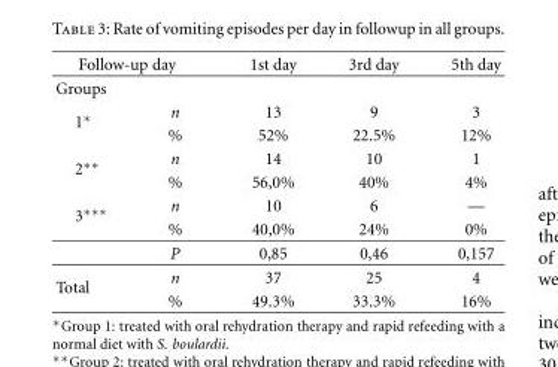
<table><thead><tr><td colspan="2">Follow-up day</td><td rowspan="2">1st day</td><td rowspan="2">3rd day</td><td rowspan="2">5th day</td></tr><tr><td>Groups</td><td></td></tr></thead><tbody><tr><td rowspan="2">1∗</td><td>n</td><td>13</td><td>9</td><td>3</td></tr><tr><td>%</td><td>52%</td><td>22.5%</td><td>12%</td></tr><tr><td rowspan="2">2∗∗</td><td>n</td><td>14</td><td>10</td><td>1</td></tr><tr><td>%</td><td>56,0%</td><td>40%</td><td>4%</td></tr><tr><td rowspan="3">3∗∗∗</td><td>n</td><td>10</td><td>6</td><td>—</td></tr><tr><td>%</td><td>40,0%</td><td>24%</td><td>0%</td></tr><tr><td>P</td><td>0,85</td><td>0,46</td><td>0,157</td></tr><tr><td rowspan="2">Total</td><td>n</td><td>37</td><td>25</td><td>4</td></tr><tr><td>%</td><td>49.3%</td><td>33.3%</td><td>16%</td></tr></tbody></table>